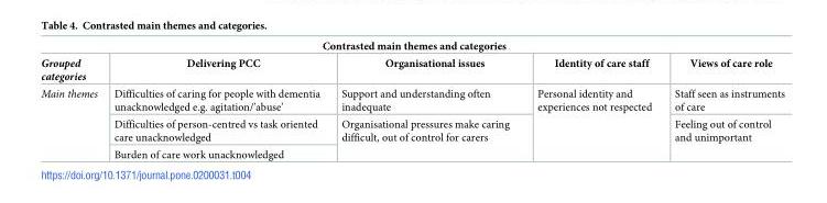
<table><thead><tr><td colspan="5">Contrasted main themes and categories</td></tr><tr><td>Grouped categories</td><td>Delivering PCC</td><td>Organisational issues</td><td>Identity of care staff</td><td>Views of care role</td></tr></thead><tbody><tr><td rowspan="3">Main themes</td><td>Difficulties of caring for people with dementia unacknowledged e.g. agitation/’abuse’</td><td>Support and understanding often inadequate</td><td rowspan="3">Personal identity and experiences not respected</td><td>Staff seen as instruments of care</td></tr><tr><td>Difficulties of person-centred vs task oriented care unacknowledged</td><td rowspan="2">Organisational pressures make caring difficult, out of control for carers</td><td rowspan="2">Feeling out of control and unimportant</td></tr><tr><td>Burden of care work unacknowledged</td></tr></tbody></table>